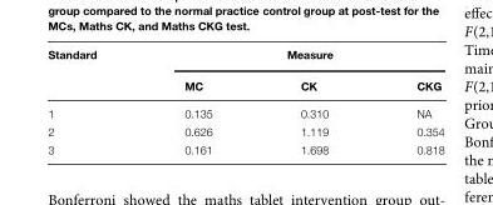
<table><thead><tr><td rowspan="2">Standard</td><td colspan="3">Measure</td></tr><tr><td>MC</td><td>CK</td><td>CKG</td></tr></thead><tbody><tr><td>1</td><td>0.135</td><td>0.310</td><td>NA</td></tr><tr><td>2</td><td>0.626</td><td>1.119</td><td>0.354</td></tr><tr><td>3</td><td>0.161</td><td>1.698</td><td>0.818</td></tr></tbody></table>